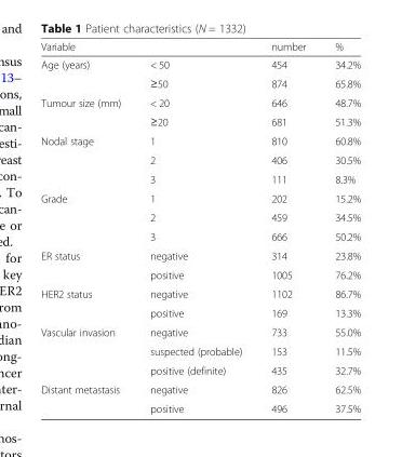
<table><thead><tr><td>Variable</td><td></td><td>number</td><td>%</td></tr></thead><tbody><tr><td rowspan="2">Age (years)</td><td>&lt; 50</td><td>454</td><td>34.2%</td></tr><tr><td>≥50</td><td>874</td><td>65.8%</td></tr><tr><td rowspan="2">Tumour size (mm)</td><td>&lt; 20</td><td>646</td><td>48.7%</td></tr><tr><td>≥20</td><td>681</td><td>51.3%</td></tr><tr><td rowspan="3">Nodal stage</td><td>1</td><td>810</td><td>60.8%</td></tr><tr><td>2</td><td>406</td><td>30.5%</td></tr><tr><td>3</td><td>111</td><td>8.3%</td></tr><tr><td rowspan="3">Grade</td><td>1</td><td>202</td><td>15.2%</td></tr><tr><td>2</td><td>459</td><td>34.5%</td></tr><tr><td>3</td><td>666</td><td>50.2%</td></tr><tr><td rowspan="2">ER status</td><td>negative</td><td>314</td><td>23.8%</td></tr><tr><td>positive</td><td>1005</td><td>76.2%</td></tr><tr><td rowspan="2">HER2 status</td><td>negative</td><td>1102</td><td>86.7%</td></tr><tr><td>positive</td><td>169</td><td>13.3%</td></tr><tr><td rowspan="3">Vascular invasion</td><td>negative</td><td>733</td><td>55.0%</td></tr><tr><td>suspected (probable)</td><td>153</td><td>11.5%</td></tr><tr><td>positive (definite)</td><td>435</td><td>32.7%</td></tr><tr><td rowspan="2">Distant metastasis</td><td>negative</td><td>826</td><td>62.5%</td></tr><tr><td>positive</td><td>496</td><td>37.5%</td></tr></tbody></table>